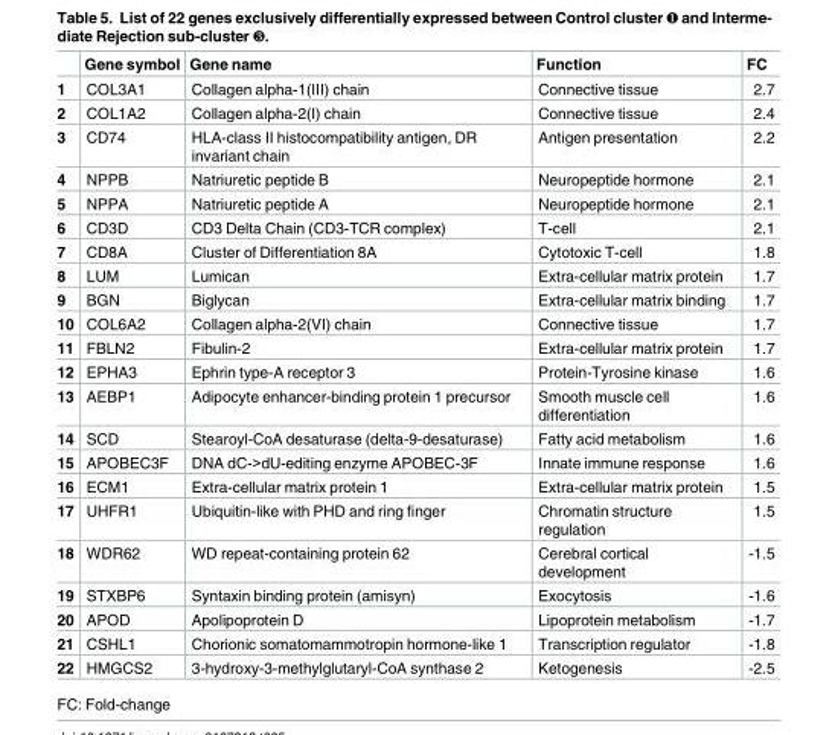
<table><thead><tr><td></td><td>Gene symbol</td><td>Gene name</td><td>Function</td><td>FC</td></tr></thead><tbody><tr><td>1</td><td>COL3A1</td><td>Collagen alpha-1(III) chain</td><td>Connective tissue</td><td>2.7</td></tr><tr><td>2</td><td>COL1A2</td><td>Collagen alpha-2(I) chain</td><td>Connective tissue</td><td>2.4</td></tr><tr><td>3</td><td>CD74</td><td>HLA-class II histocompatibility antigen, DR invariant chain</td><td>Antigen presentation</td><td>2.2</td></tr><tr><td>4</td><td>NPPB</td><td>Natriuretic peptide B</td><td>Neuropeptide hormone</td><td>2.1</td></tr><tr><td>5</td><td>NPPA</td><td>Natriuretic peptide A</td><td>Neuropeptide hormone</td><td>2.1</td></tr><tr><td>6</td><td>CD3D</td><td>CD3 Delta Chain (CD3-TCR complex)</td><td>T-cell</td><td>2.1</td></tr><tr><td>7</td><td>CD8A</td><td>Cluster of Differentiation 8A</td><td>Cytotoxic T-cell</td><td>1.8</td></tr><tr><td>8</td><td>LUM</td><td>Lumican</td><td>Extra-cellular matrix protein</td><td>1.7</td></tr><tr><td>9</td><td>BGN</td><td>Biglycan</td><td>Extra-cellular matrix binding</td><td>1.7</td></tr><tr><td>10</td><td>COL6A2</td><td>Collagen alpha-2(VI) chain</td><td>Connective tissue</td><td>1.7</td></tr><tr><td>11</td><td>FBLN2</td><td>Fibulin-2</td><td>Extra-cellular matrix protein</td><td>1.7</td></tr><tr><td>12</td><td>EPHA3</td><td>Ephrin type-A receptor 3</td><td>Protein-Tyrosine kinase</td><td>1.6</td></tr><tr><td>13</td><td>AEBP1</td><td>Adipocyte enhancer-binding protein 1 precursor</td><td>Smooth muscle cell differentiation</td><td>1.6</td></tr><tr><td>14</td><td>SCD</td><td>Stearoyl-CoA desaturase (delta-9-desaturase)</td><td>Fatty acid metabolism</td><td>1.6</td></tr><tr><td>15</td><td>APOBEC3F</td><td>DNA dC-&gt;dU-editing enzyme APOBEC-3F</td><td>Innate immune response</td><td>1.6</td></tr><tr><td>16</td><td>ECM1</td><td>Extra-cellular matrix protein 1</td><td>Extra-cellular matrix protein</td><td>1.5</td></tr><tr><td>17</td><td>UHFR1</td><td>Ubiquitin-like with PHD and ring finger</td><td>Chromatin structure regulation</td><td>1.5</td></tr><tr><td>18</td><td>WDR62</td><td>WD repeat-containing protein 62</td><td>Cerebral cortical development</td><td>-1.5</td></tr><tr><td>19</td><td>STXBP6</td><td>Syntaxin binding protein (amisyn)</td><td>Exocytosis</td><td>-1.6</td></tr><tr><td>20</td><td>APOD</td><td>Apolipoprotein D</td><td>Lipoprotein metabolism</td><td>-1.7</td></tr><tr><td>21</td><td>CSHL1</td><td>Chorionic somatomammotropin hormone-like 1</td><td>Transcription regulator</td><td>-1.8</td></tr><tr><td>22</td><td>HMGCS2</td><td>3-hydroxy-3-methylglutaryl-CoA synthase 2</td><td>Ketogenesis</td><td>-2.5</td></tr></tbody></table>